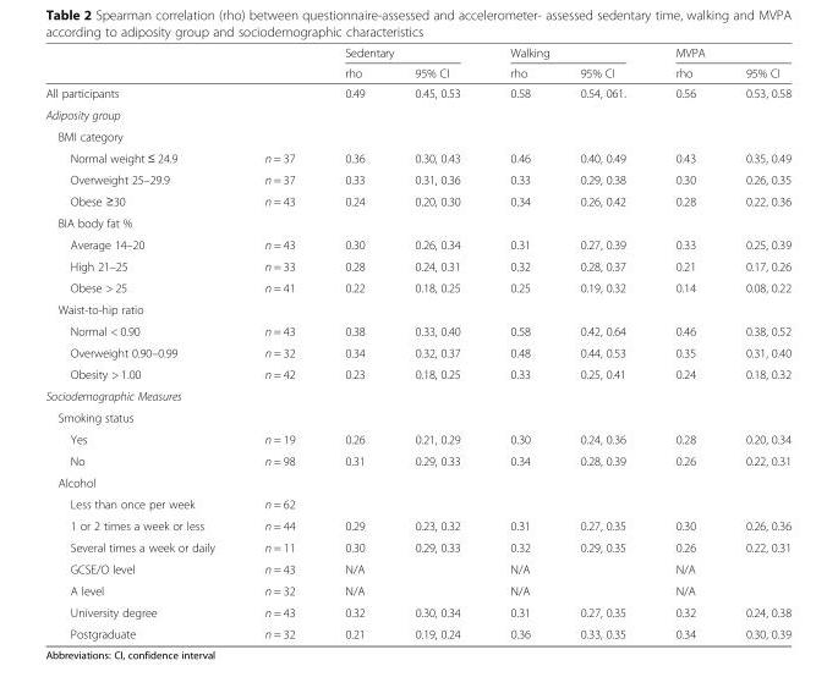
<table><thead><tr><td rowspan="2"></td><td rowspan="2"></td><td colspan="2">Sedentary</td><td colspan="2">Walking</td><td colspan="2">MVPA</td></tr><tr><td>rho</td><td>95% CI</td><td>rho</td><td>95% CI</td><td>rho</td><td>95% CI</td></tr></thead><tbody><tr><td>All participants</td><td></td><td>0.49</td><td>0.45, 0.53</td><td>0.58</td><td>0.54, 061.</td><td>0.56</td><td>0.53, 0.58</td></tr><tr><td colspan="8">Adiposity group</td></tr><tr><td colspan="8">BMI category</td></tr><tr><td>Normal weight ≤ 24.9</td><td>n = 37</td><td>0.36</td><td>0.30, 0.43</td><td>0.46</td><td>0.40, 0.49</td><td>0.43</td><td>0.35, 0.49</td></tr><tr><td>Overweight 25–29.9</td><td>n = 37</td><td>0.33</td><td>0.31, 0.36</td><td>0.33</td><td>0.29, 0.38</td><td>0.30</td><td>0.26, 0.35</td></tr><tr><td>Obese ≥30</td><td>n = 43</td><td>0.24</td><td>0.20, 0.30</td><td>0.34</td><td>0.26, 0.42</td><td>0.28</td><td>0.22, 0.36</td></tr><tr><td colspan="8">BIA body fat %</td></tr><tr><td>Average 14–20</td><td>n = 43</td><td>0.30</td><td>0.26, 0.34</td><td>0.31</td><td>0.27, 0.39</td><td>0.33</td><td>0.25, 0.39</td></tr><tr><td>High 21–25</td><td>n = 33</td><td>0.28</td><td>0.24, 0.31</td><td>0.32</td><td>0.28, 0.37</td><td>0.21</td><td>0.17, 0.26</td></tr><tr><td>Obese &gt; 25</td><td>n = 41</td><td>0.22</td><td>0.18, 0.25</td><td>0.25</td><td>0.19, 0.32</td><td>0.14</td><td>0.08, 0.22</td></tr><tr><td colspan="8">Waist-to-hip ratio</td></tr><tr><td>Normal &lt; 0.90</td><td>n = 43</td><td>0.38</td><td>0.33, 0.40</td><td>0.58</td><td>0.42, 0.64</td><td>0.46</td><td>0.38, 0.52</td></tr><tr><td>Overweight 0.90–0.99</td><td>n = 32</td><td>0.34</td><td>0.32, 0.37</td><td>0.48</td><td>0.44, 0.53</td><td>0.35</td><td>0.31, 0.40</td></tr><tr><td>Obesity &gt; 1.00</td><td>n = 42</td><td>0.23</td><td>0.18, 0.25</td><td>0.33</td><td>0.25, 0.41</td><td>0.24</td><td>0.18, 0.32</td></tr><tr><td colspan="8">Sociodemographic Measures</td></tr><tr><td colspan="8">Smoking status</td></tr><tr><td>Yes</td><td>n = 19</td><td>0.26</td><td>0.21, 0.29</td><td>0.30</td><td>0.24, 0.36</td><td>0.28</td><td>0.20, 0.34</td></tr><tr><td>No</td><td>n = 98</td><td>0.31</td><td>0.29, 0.33</td><td>0.34</td><td>0.28, 0.39</td><td>0.26</td><td>0.22, 0.31</td></tr><tr><td colspan="8">Alcohol</td></tr><tr><td>Less than once per week</td><td>n = 62</td><td></td><td></td><td></td><td></td><td></td><td></td></tr><tr><td>1 or 2 times a week or less</td><td>n = 44</td><td>0.29</td><td>0.23, 0.32</td><td>0.31</td><td>0.27, 0.35</td><td>0.30</td><td>0.26, 0.36</td></tr><tr><td>Several times a week or daily</td><td>n = 11</td><td>0.30</td><td>0.29, 0.33</td><td>0.32</td><td>0.29, 0.35</td><td>0.26</td><td>0.22, 0.31</td></tr><tr><td>GCSE/O level</td><td>n = 43</td><td>N/A</td><td></td><td>N/A</td><td></td><td>N/A</td><td></td></tr><tr><td>A level</td><td>n = 32</td><td>N/A</td><td></td><td>N/A</td><td></td><td>N/A</td><td></td></tr><tr><td>University degree</td><td>n = 43</td><td>0.32</td><td>0.30, 0.34</td><td>0.31</td><td>0.27, 0.35</td><td>0.32</td><td>0.24, 0.38</td></tr><tr><td>Postgraduate</td><td>n = 32</td><td>0.21</td><td>0.19, 0.24</td><td>0.36</td><td>0.33, 0.35</td><td>0.34</td><td>0.30, 0.39</td></tr></tbody></table>